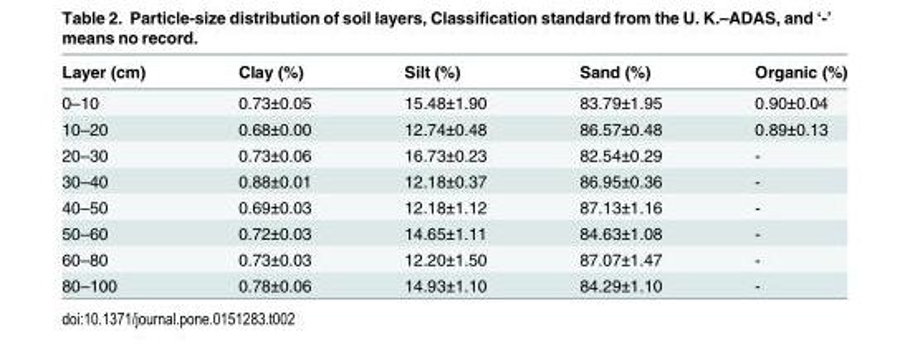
<table><thead><tr><td>Layer (cm)</td><td>Clay (%)</td><td>Silt (%)</td><td>Sand (%)</td><td>Organic (%)</td></tr></thead><tbody><tr><td>0–10</td><td>0.73±0.05</td><td>15.48±1.90</td><td>83.79±1.95</td><td>0.90±0.04</td></tr><tr><td>10–20</td><td>0.68±0.00</td><td>12.74±0.48</td><td>86.57±0.48</td><td>0.89±0.13</td></tr><tr><td>20–30</td><td>0.73±0.06</td><td>16.73±0.23</td><td>82.54±0.29</td><td>-</td></tr><tr><td>30–40</td><td>0.88±0.01</td><td>12.18±0.37</td><td>86.95±0.36</td><td>-</td></tr><tr><td>40–50</td><td>0.69±0.03</td><td>12.18±1.12</td><td>87.13±1.16</td><td>-</td></tr><tr><td>50–60</td><td>0.72±0.03</td><td>14.65±1.11</td><td>84.63±1.08</td><td>-</td></tr><tr><td>60–80</td><td>0.73±0.03</td><td>12.20±1.50</td><td>87.07±1.47</td><td>-</td></tr><tr><td>80–100</td><td>0.78±0.06</td><td>14.93±1.10</td><td>84.29±1.10</td><td>-</td></tr></tbody></table>